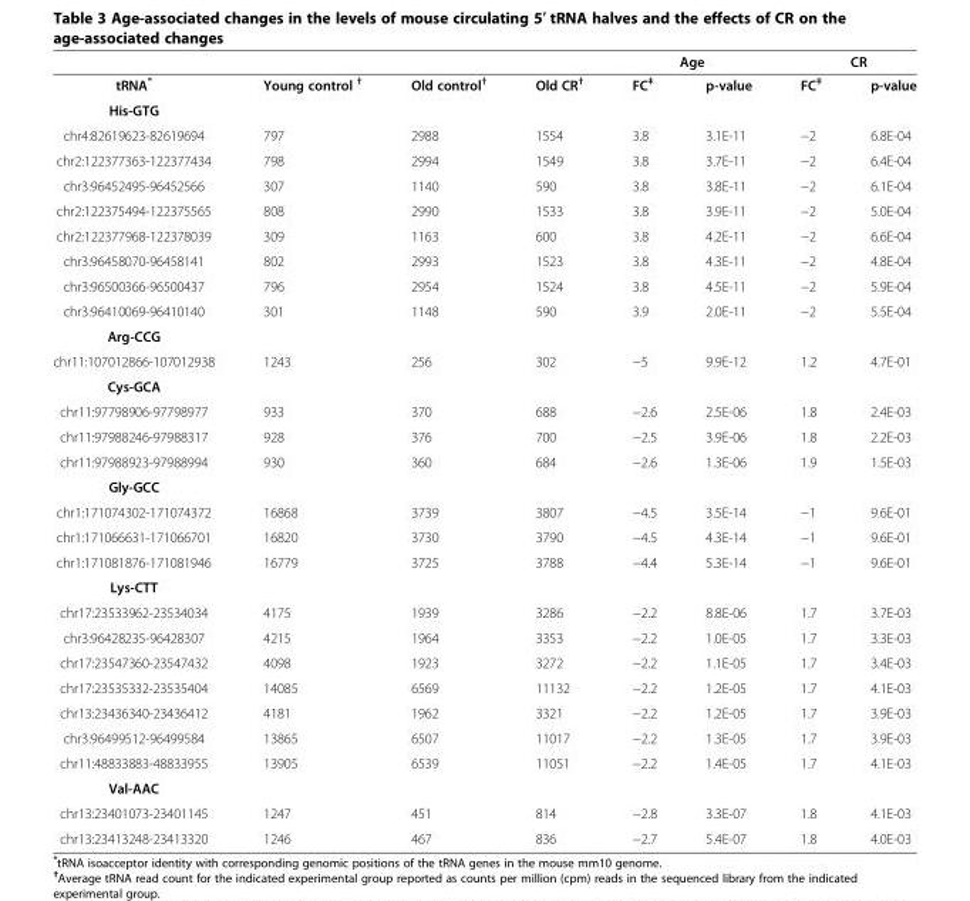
<table><thead><tr><td></td><td></td><td></td><td></td><td>Age</td><td></td><td>CR</td><td></td></tr></thead><tbody><tr><td>tRNA*</td><td>Young control <sup>†</sup></td><td>Old control<sup>†</sup></td><td>Old CR<sup>†</sup></td><td>FC<sup>‡</sup></td><td>p-value</td><td>FC<sup>‡</sup></td><td>p-value</td></tr><tr><td colspan="8">His-GTG</td></tr><tr><td>chr4:82619623-82619694</td><td>797</td><td>2988</td><td>1554</td><td>3.8</td><td>3.1E-11</td><td>−2</td><td>6.8E-04</td></tr><tr><td>chr2:122377363-122377434</td><td>798</td><td>2994</td><td>1549</td><td>3.8</td><td>3.7E-11</td><td>−2</td><td>6.4E-04</td></tr><tr><td>chr3:96452495-96452566</td><td>307</td><td>1140</td><td>590</td><td>3.8</td><td>3.8E-11</td><td>−2</td><td>6.1E-04</td></tr><tr><td>chr2:122375494-122375565</td><td>808</td><td>2990</td><td>1533</td><td>3.8</td><td>3.9E-11</td><td>−2</td><td>5.0E-04</td></tr><tr><td>chr2:122377968-122378039</td><td>309</td><td>1163</td><td>600</td><td>3.8</td><td>4.2E-11</td><td>−2</td><td>6.6E-04</td></tr><tr><td>chr3:96458070-96458141</td><td>802</td><td>2993</td><td>1523</td><td>3.8</td><td>4.3E-11</td><td>−2</td><td>4.8E-04</td></tr><tr><td>chr3:96500366-96500437</td><td>796</td><td>2954</td><td>1524</td><td>3.8</td><td>4.5E-11</td><td>−2</td><td>5.9E-04</td></tr><tr><td>chr3:96410069-96410140</td><td>301</td><td>1148</td><td>590</td><td>3.9</td><td>2.0E-11</td><td>−2</td><td>5.5E-04</td></tr><tr><td colspan="8">Arg-CCG</td></tr><tr><td>chr11:107012866-107012938</td><td>1243</td><td>256</td><td>302</td><td>−5</td><td>9.9E-12</td><td>1.2</td><td>4.7E-01</td></tr><tr><td colspan="8">Cys-GCA</td></tr><tr><td>chr11:97798906-97798977</td><td>933</td><td>370</td><td>688</td><td>−2.6</td><td>2.5E-06</td><td>1.8</td><td>2.4E-03</td></tr><tr><td>chr11:97988246-97988317</td><td>928</td><td>376</td><td>700</td><td>−2.5</td><td>3.9E-06</td><td>1.8</td><td>2.2E-03</td></tr><tr><td>chr11:97988923-97988994</td><td>930</td><td>360</td><td>684</td><td>−2.6</td><td>1.3E-06</td><td>1.9</td><td>1.5E-03</td></tr><tr><td colspan="8">Gly-GCC</td></tr><tr><td>chr1:171074302-171074372</td><td>16868</td><td>3739</td><td>3807</td><td>−4.5</td><td>3.5E-14</td><td>−1</td><td>9.6E-01</td></tr><tr><td>chr1:171066631-171066701</td><td>16820</td><td>3730</td><td>3790</td><td>−4.5</td><td>4.3E-14</td><td>−1</td><td>9.6E-01</td></tr><tr><td>chr1:171081876-171081946</td><td>16779</td><td>3725</td><td>3788</td><td>−4.4</td><td>5.3E-14</td><td>−1</td><td>9.6E-01</td></tr><tr><td colspan="8">Lys-CTT</td></tr><tr><td>chr17:23533962-23534034</td><td>4175</td><td>1939</td><td>3286</td><td>−2.2</td><td>8.8E-06</td><td>1.7</td><td>3.7E-03</td></tr><tr><td>chr3:96428235-96428307</td><td>4215</td><td>1964</td><td>3353</td><td>−2.2</td><td>1.0E-05</td><td>1.7</td><td>3.3E-03</td></tr><tr><td>chr17:23547360-23547432</td><td>4098</td><td>1923</td><td>3272</td><td>−2.2</td><td>1.1E-05</td><td>1.7</td><td>3.4E-03</td></tr><tr><td>chr17:23535332-23535404</td><td>14085</td><td>6569</td><td>11132</td><td>−2.2</td><td>1.2E-05</td><td>1.7</td><td>4.1E-03</td></tr><tr><td>chr13:23436340-23436412</td><td>4181</td><td>1962</td><td>3321</td><td>−2.2</td><td>1.2E-05</td><td>1.7</td><td>3.9E-03</td></tr><tr><td>chr3:96499512-96499584</td><td>13865</td><td>6507</td><td>11017</td><td>−2.2</td><td>1.3E-05</td><td>1.7</td><td>3.9E-03</td></tr><tr><td>chr11:48833883-48833955</td><td>13905</td><td>6539</td><td>11051</td><td>−2.2</td><td>1.4E-05</td><td>1.7</td><td>4.1E-03</td></tr><tr><td colspan="8">Val-AAC</td></tr><tr><td>chr13:23401073-23401145</td><td>1247</td><td>451</td><td>814</td><td>−2.8</td><td>3.3E-07</td><td>1.8</td><td>4.1E-03</td></tr><tr><td>chr13:23413248-23413320</td><td>1246</td><td>467</td><td>836</td><td>−2.7</td><td>5.4E-07</td><td>1.8</td><td>4.0E-03</td></tr></tbody></table>